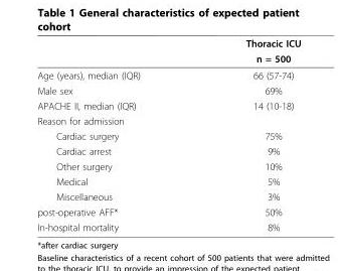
<table><thead><tr><td rowspan="2"></td><td rowspan="2">Thoracic ICU n = 500</td></tr><tr></tr></thead><tbody><tr><td>Age (years), median (IQR)</td><td>66 (57-74)</td></tr><tr><td>Male sex</td><td>69%</td></tr><tr><td>APACHE II, median (IQR)</td><td>14 (10-18)</td></tr><tr><td colspan="2">Reason for admission</td></tr><tr><td>Cardiac surgery</td><td>75%</td></tr><tr><td>Cardiac arrest</td><td>9%</td></tr><tr><td>Other surgery</td><td>10%</td></tr><tr><td>Medical</td><td>5%</td></tr><tr><td>Miscellaneous</td><td>3%</td></tr><tr><td>post-operative AFF*</td><td>50%</td></tr><tr><td>In-hospital mortality</td><td>8%</td></tr></tbody></table>